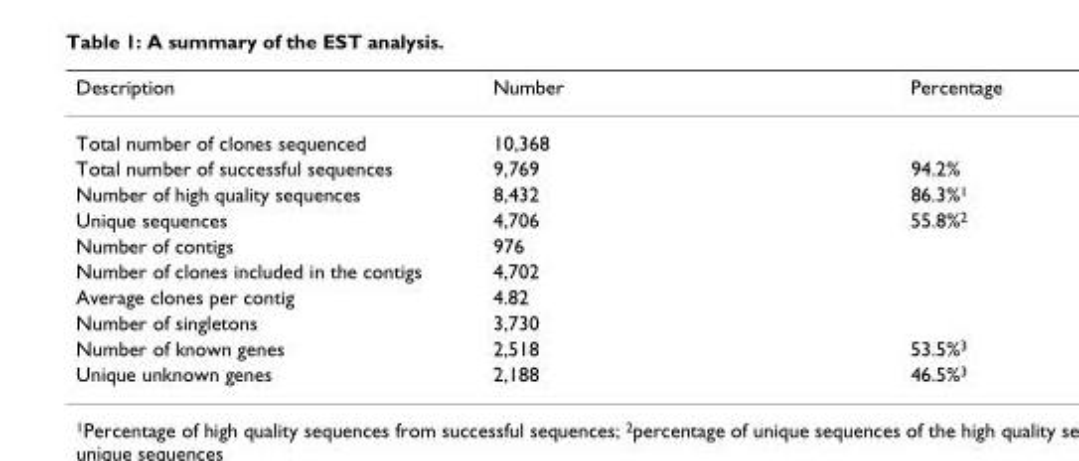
<table><thead><tr><td>Description</td><td>Number</td><td>Percentage</td></tr></thead><tbody><tr><td>Total number of clones sequenced</td><td>10,368</td><td></td></tr><tr><td>Total number of successful sequences</td><td>9,769</td><td>94.2%</td></tr><tr><td>Number of high quality sequences</td><td>8,432</td><td>86.3%<sup>1</sup></td></tr><tr><td>Unique sequences</td><td>4,706</td><td>55.8%<sup>2</sup></td></tr><tr><td>Number of contigs</td><td>976</td><td></td></tr><tr><td>Number of clones included in the contigs</td><td>4,702</td><td></td></tr><tr><td>Average clones per contig</td><td>4.82</td><td></td></tr><tr><td>Number of singletons</td><td>3,730</td><td></td></tr><tr><td>Number of known genes</td><td>2,518</td><td>53.5%<sup>3</sup></td></tr><tr><td>Unique unknown genes</td><td>2,188</td><td>46.5%<sup>3</sup></td></tr></tbody></table>